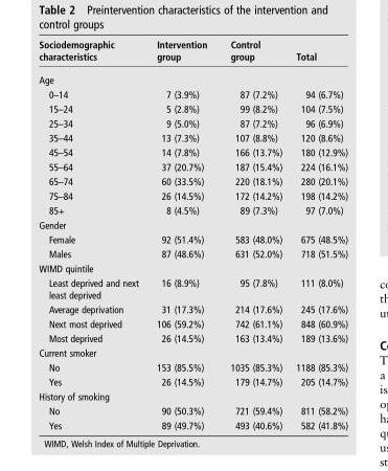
<table><thead><tr><td>Sociodemographic characteristics</td><td>Intervention group</td><td>Control group</td><td>Total</td></tr></thead><tbody><tr><td colspan="4">Age</td></tr><tr><td>0–14</td><td>7 (3.9%)</td><td>87 (7.2%)</td><td>94 (6.7%)</td></tr><tr><td>15–24</td><td>5 (2.8%)</td><td>99 (8.2%)</td><td>104 (7.5%)</td></tr><tr><td>25–34</td><td>9 (5.0%)</td><td>87 (7.2%)</td><td>96 (6.9%)</td></tr><tr><td>35–44</td><td>13 (7.3%)</td><td>107 (8.8%)</td><td>120 (8.6%)</td></tr><tr><td>45–54</td><td>14 (7.8%)</td><td>166 (13.7%)</td><td>180 (12.9%)</td></tr><tr><td>55–64</td><td>37 (20.7%)</td><td>187 (15.4%)</td><td>224 (16.1%)</td></tr><tr><td>65–74</td><td>60 (33.5%)</td><td>220 (18.1%)</td><td>280 (20.1%)</td></tr><tr><td>75–84</td><td>26 (14.5%)</td><td>172 (14.2%)</td><td>198 (14.2%)</td></tr><tr><td>85+</td><td>8 (4.5%)</td><td>89 (7.3%)</td><td>97 (7.0%)</td></tr><tr><td colspan="4">Gender</td></tr><tr><td>Female</td><td>92 (51.4%)</td><td>583 (48.0%)</td><td>675 (48.5%)</td></tr><tr><td>Males</td><td>87 (48.6%)</td><td>631 (52.0%)</td><td>718 (51.5%)</td></tr><tr><td colspan="4">WIMD quintile</td></tr><tr><td>Least deprived and next least deprived</td><td>16 (8.9%)</td><td>95 (7.8%)</td><td>111 (8.0%)</td></tr><tr><td>Average deprivation</td><td>31 (17.3%)</td><td>214 (17.6%)</td><td>245 (17.6%)</td></tr><tr><td>Next most deprived</td><td>106 (59.2%)</td><td>742 (61.1%)</td><td>848 (60.9%)</td></tr><tr><td>Most deprived</td><td>26 (14.5%)</td><td>163 (13.4%)</td><td>189 (13.6%)</td></tr><tr><td colspan="4">Current smoker</td></tr><tr><td>No</td><td>153 (85.5%)</td><td>1035 (85.3%)</td><td>1188 (85.3%)</td></tr><tr><td>Yes</td><td>26 (14.5%)</td><td>179 (14.7%)</td><td>205 (14.7%)</td></tr><tr><td colspan="4">History of smoking</td></tr><tr><td>No</td><td>90 (50.3%)</td><td>721 (59.4%)</td><td>811 (58.2%)</td></tr><tr><td>Yes</td><td>89 (49.7%)</td><td>493 (40.6%)</td><td>582 (41.8%)</td></tr></tbody></table>